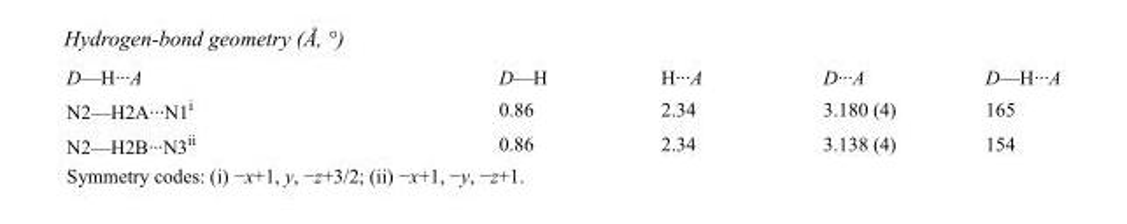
<table><tbody><tr><td>D—H···A</td><td>D—H</td><td>H···A</td><td>D···A</td><td>D—H···A</td></tr><tr><td>N2—H2A···N1<sup>i</sup></td><td>0.86</td><td>2.34</td><td>3.180 (4)</td><td>165</td></tr><tr><td>N2—H2B···N3<sup>ii</sup></td><td>0.86</td><td>2.34</td><td>3.138 (4)</td><td>154</td></tr></tbody></table>